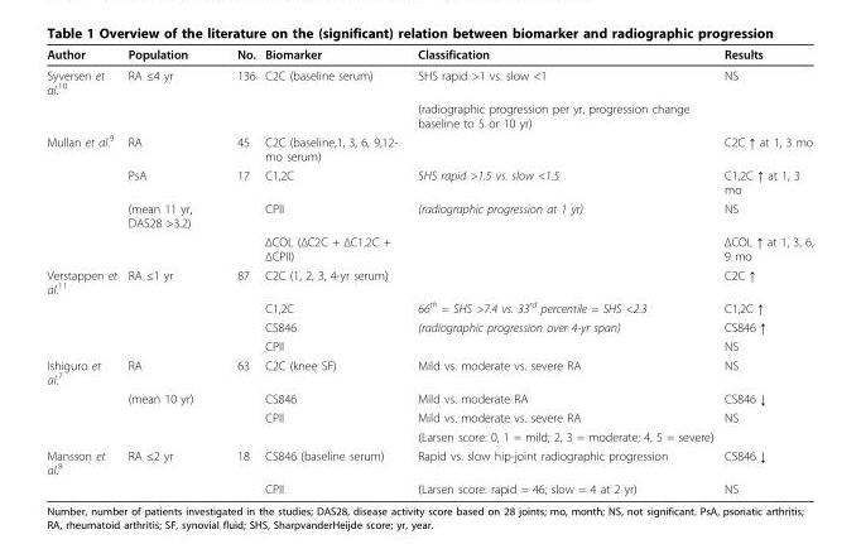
<table><thead><tr><td>Author</td><td>Population</td><td>No.</td><td>Biomarker</td><td>Classification</td><td>Results</td></tr></thead><tbody><tr><td rowspan="2">Syversen et al.<sup>10</sup></td><td>RA ≤4 yr</td><td>136</td><td>C2C (baseline serum)</td><td>SHS rapid &gt;1 vs. slow &lt;1</td><td>NS</td></tr><tr><td></td><td></td><td></td><td>(radiographic progression per yr, progression change baseline to 5 or 10 yr)</td><td></td></tr><tr><td rowspan="4">Mullan et al.<sup>9</sup></td><td>RA</td><td>45</td><td>C2C (baseline,1, 3, 6, 9,12- mo serum)</td><td></td><td>C2C ↑ at 1, 3 mo</td></tr><tr><td>PsA</td><td>17</td><td>C1,2C</td><td>SHS rapid &gt;1.5 vs. slow &lt;1.5</td><td>C1,2C ↑ at 1, 3 mo</td></tr><tr><td>(mean 11 yr, DAS28 &gt;3.2)</td><td></td><td>CPII</td><td>(radiographic progression at 1 yr)</td><td>NS</td></tr><tr><td></td><td></td><td>ΔCOL (ΔC2C + ΔC1,2C + ΔCPII)</td><td></td><td>ΔCOL ↑ at 1, 3, 6, 9 mo</td></tr><tr><td rowspan="4">Verstappen et al.<sup>11</sup></td><td>RA ≤1 yr</td><td>87</td><td>C2C (1, 2, 3, 4-yr serum)</td><td></td><td>C2C ↑</td></tr><tr><td></td><td></td><td>C1,2C</td><td>66<sup>th</sup> = SHS &gt;7.4 vs. 33<sup>rd</sup> percentile = SHS &lt;2.3</td><td>C1,2C ↑</td></tr><tr><td></td><td></td><td>CS846</td><td>(radiographic progression over 4-yr span)</td><td>CS846 ↑</td></tr><tr><td></td><td></td><td>CPII</td><td></td><td>NS</td></tr><tr><td rowspan="4">Ishiguro et al.<sup>7</sup></td><td>RA</td><td>63</td><td>C2C (knee SF)</td><td>Mild vs. moderate vs. severe RA</td><td>NS</td></tr><tr><td>(mean 10 yr)</td><td></td><td>CS846</td><td>Mild vs. moderate RA</td><td>CS846 ↓</td></tr><tr><td></td><td></td><td>CPII</td><td>Mild vs. moderate vs. severe RA</td><td>NS</td></tr><tr><td></td><td></td><td></td><td>(Larsen score: 0, 1 = mild; 2, 3 = moderate; 4, 5 = severe)</td><td></td></tr><tr><td rowspan="2">Mansson et al.<sup>8</sup></td><td>RA ≤2 yr</td><td>18</td><td>CS846 (baseline serum)</td><td>Rapid vs. slow hip-joint radiographic progression</td><td>CS846 ↓</td></tr><tr><td></td><td></td><td>CPII</td><td>(Larsen score: rapid = 46; slow = 4 at 2 yr)</td><td>NS</td></tr></tbody></table>